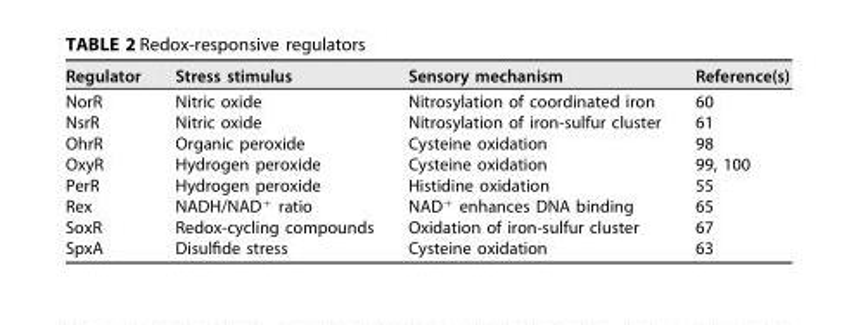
<table><thead><tr><td>Regulator</td><td>Stress stimulus</td><td>Sensory mechanism</td><td>Reference(s)</td></tr></thead><tbody><tr><td>NorR</td><td>Nitric oxide</td><td>Nitrosylation of coordinated iron</td><td>60</td></tr><tr><td>NsrR</td><td>Nitric oxide</td><td>Nitrosylation of iron-sulfur cluster</td><td>61</td></tr><tr><td>OhrR</td><td>Organic peroxide</td><td>Cysteine oxidation</td><td>98</td></tr><tr><td>OxyR</td><td>Hydrogen peroxide</td><td>Cysteine oxidation</td><td>99, 100</td></tr><tr><td>PerR</td><td>Hydrogen peroxide</td><td>Histidine oxidation</td><td>55</td></tr><tr><td>Rex</td><td>NADH/NAD<sup>+</sup> ratio</td><td>NAD<sup>+</sup> enhances DNA binding</td><td>65</td></tr><tr><td>SoxR</td><td>Redox-cycling compounds</td><td>Oxidation of iron-sulfur cluster</td><td>67</td></tr><tr><td>SpxA</td><td>Disulfide stress</td><td>Cysteine oxidation</td><td>63</td></tr></tbody></table>